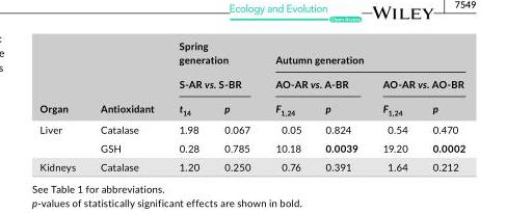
<table><thead><tr><td rowspan="3">Organ</td><td rowspan="3">Antioxidant</td><td rowspan="2" colspan="2">Spring generation S- AR vs. S- BR</td><td colspan="4">Autumn generation</td></tr><tr><td colspan="2">AO- AR vs. A- BR</td><td colspan="2">AO- AR vs. AO- BR</td></tr><tr><td>t<sub>14</sub></td><td>p</td><td>F<sub>1,24</sub></td><td>p</td><td>F<sub>1,24</sub></td><td>p</td></tr></thead><tbody><tr><td rowspan="2">Liver</td><td>Catalase</td><td>1.98</td><td>0.067</td><td>0.05</td><td>0.824</td><td>0.54</td><td>0.470</td></tr><tr><td>GSH</td><td>0.28</td><td>0.785</td><td>10.18</td><td>0.0039</td><td>19.20</td><td>0.0002</td></tr><tr><td>Kidneys</td><td>Catalase</td><td>1.20</td><td>0.250</td><td>0.76</td><td>0.391</td><td>1.64</td><td>0.212</td></tr></tbody></table>